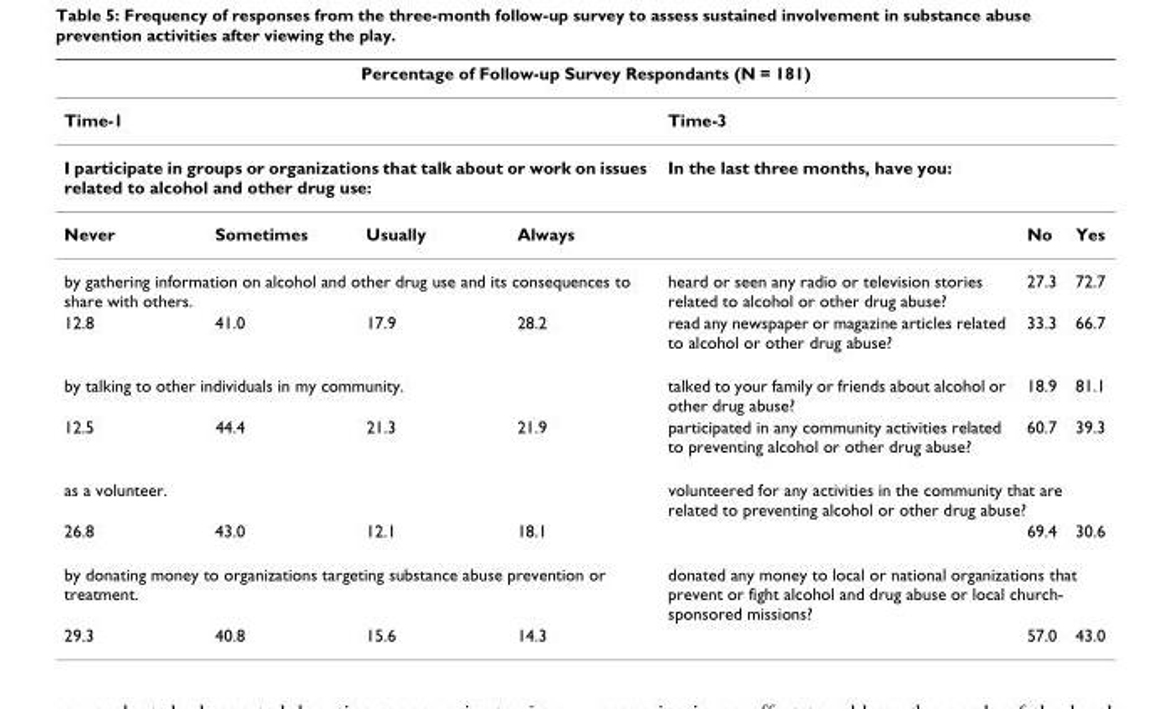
<table><thead><tr><td colspan="7">Percentage of Follow-up Survey Respondants (N = 181)</td></tr><tr><td rowspan="2" colspan="4">Time-1 I participate in groups or organizations that talk about or work on issues related to alcohol and other drug use:</td><td rowspan="2" colspan="3">Time-3 In the last three months, have you:</td></tr><tr></tr><tr><td>Never</td><td>Sometimes</td><td>Usually</td><td>Always</td><td></td><td>No</td><td>Yes</td></tr></thead><tbody><tr><td colspan="4">by gathering information on alcohol and other drug use and its consequences to share with others.</td><td>heard or seen any radio or television stories related to alcohol or other drug abuse?</td><td>27.3</td><td>72.7</td></tr><tr><td>12.8</td><td>41.0</td><td>17.9</td><td>28.2</td><td>read any newspaper or magazine articles related to alcohol or other drug abuse?</td><td>33.3</td><td>66.7</td></tr><tr><td colspan="4">by talking to other individuals in my community.</td><td>talked to your family or friends about alcohol or other drug abuse?</td><td>18.9</td><td>81.1</td></tr><tr><td>12.5</td><td>44.4</td><td>21.3</td><td>21.9</td><td>participated in any community activities related to preventing alcohol or other drug abuse?</td><td>60.7</td><td>39.3</td></tr><tr><td colspan="4">as a volunteer.</td><td colspan="3">volunteered for any activities in the community that are related to preventing alcohol or other drug abuse?</td></tr><tr><td>26.8</td><td>43.0</td><td>12.1</td><td>18.1</td><td></td><td>69.4</td><td>30.6</td></tr><tr><td colspan="4">by donating money to organizations targeting substance abuse prevention or treatment.</td><td colspan="3">donated any money to local or national organizations that prevent or fight alcohol and drug abuse or local church- sponsored missions?</td></tr><tr><td>29.3</td><td>40.8</td><td>15.6</td><td>14.3</td><td></td><td>57.0</td><td>43.0</td></tr></tbody></table>